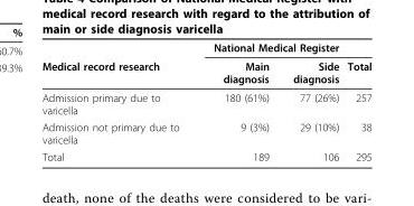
<table><thead><tr><td rowspan="2">Medical record research</td><td colspan="2">National Medical Register</td><td rowspan="2">Total</td></tr><tr><td>Main diagnosis</td><td>Side diagnosis</td></tr></thead><tbody><tr><td>Admission primary due to varicella</td><td>180 (61%)</td><td>77 (26%)</td><td>257</td></tr><tr><td>Admission not primary due to varicella</td><td>9 (3%)</td><td>29 (10%)</td><td>38</td></tr><tr><td>Total</td><td>189</td><td>106</td><td>295</td></tr></tbody></table>